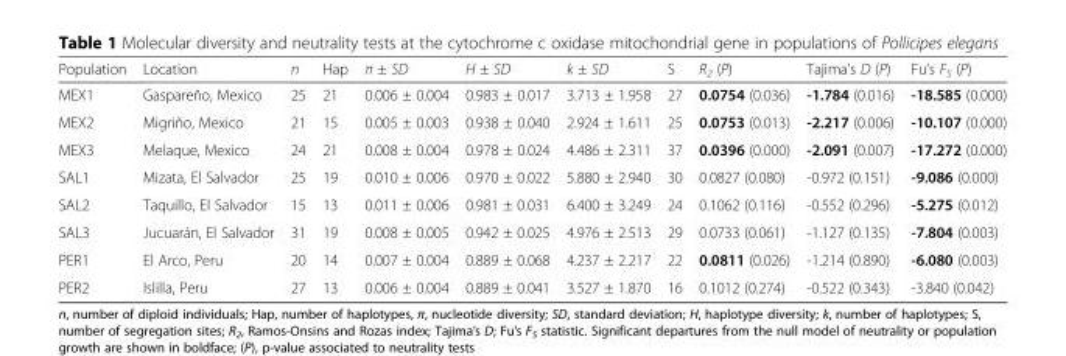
<table><thead><tr><td>Population</td><td>Location</td><td>n</td><td>Hap</td><td>π ± SD</td><td>H ± SD</td><td>k ± SD</td><td>S</td><td>R<sub>2</sub> (P)</td><td>Tajima’s D (P)</td><td>Fu’s F<sub>S</sub> (P)</td></tr></thead><tbody><tr><td>MEX1</td><td>Gaspareño, Mexico</td><td>25</td><td>21</td><td>0.006 ± 0.004</td><td>0.983 ± 0.017</td><td>3.713 ± 1.958</td><td>27</td><td>0.0754 (0.036)</td><td>-1.784 (0.016)</td><td>-18.585 (0.000)</td></tr><tr><td>MEX2</td><td>Migriño, Mexico</td><td>21</td><td>15</td><td>0.005 ± 0.003</td><td>0.938 ± 0.040</td><td>2.924 ± 1.611</td><td>25</td><td>0.0753 (0.013)</td><td>-2.217 (0.006)</td><td>-10.107 (0.000)</td></tr><tr><td>MEX3</td><td>Melaque, Mexico</td><td>24</td><td>21</td><td>0.008 ± 0.004</td><td>0.978 ± 0.024</td><td>4.486 ± 2.311</td><td>37</td><td>0.0396 (0.000)</td><td>-2.091 (0.007)</td><td>-17.272 (0.000)</td></tr><tr><td>SAL1</td><td>Mizata, El Salvador</td><td>25</td><td>19</td><td>0.010 ± 0.006</td><td>0.970 ± 0.022</td><td>5.880 ± 2.940</td><td>30</td><td>0.0827 (0.080)</td><td>-0.972 (0.151)</td><td>-9.086 (0.000)</td></tr><tr><td>SAL2</td><td>Taquillo, El Salvador</td><td>15</td><td>13</td><td>0.011 ± 0.006</td><td>0.981 ± 0.031</td><td>6.400 ± 3.249</td><td>24</td><td>0.1062 (0.116)</td><td>-0.552 (0.296)</td><td>-5.275 (0.012)</td></tr><tr><td>SAL3</td><td>Jucuarán, El Salvador</td><td>31</td><td>19</td><td>0.008 ± 0.005</td><td>0.942 ± 0.025</td><td>4.976 ± 2.513</td><td>29</td><td>0.0733 (0.061)</td><td>-1.127 (0.135)</td><td>-7.804 (0.003)</td></tr><tr><td>PER1</td><td>El Arco, Peru</td><td>20</td><td>14</td><td>0.007 ± 0.004</td><td>0.889 ± 0.068</td><td>4.237 ± 2.217</td><td>22</td><td>0.0811 (0.026)</td><td>-1.214 (0.890)</td><td>-6.080 (0.003)</td></tr><tr><td>PER2</td><td>Islilla, Peru</td><td>27</td><td>13</td><td>0.006 ± 0.004</td><td>0.889 ± 0.041</td><td>3.527 ± 1.870</td><td>16</td><td>0.1012 (0.274)</td><td>-0.522 (0.343)</td><td>-3.840 (0.042)</td></tr></tbody></table>